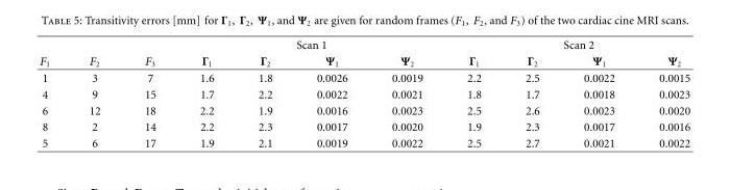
<table><thead><tr><td rowspan="2">F<sub>1</sub></td><td rowspan="2">F<sub>2</sub></td><td rowspan="2">F<sub>3</sub></td><td colspan="4">Scan 1</td><td colspan="4">Scan 2</td></tr><tr><td>Γ<sub>1</sub></td><td>Γ<sub>2</sub></td><td>Ψ<sub>1</sub></td><td>Ψ<sub>2</sub></td><td>Γ<sub>1</sub></td><td>Γ<sub>2</sub></td><td>Ψ<sub>1</sub></td><td>Ψ<sub>2</sub></td></tr></thead><tbody><tr><td>1</td><td>3</td><td>7</td><td>1.6</td><td>1.8</td><td>0.0026</td><td>0.0019</td><td>2.2</td><td>2.5</td><td>0.0022</td><td>0.0015</td></tr><tr><td>4</td><td>9</td><td>15</td><td>1.7</td><td>2.2</td><td>0.0022</td><td>0.0021</td><td>1.8</td><td>1.7</td><td>0.0018</td><td>0.0023</td></tr><tr><td>6</td><td>12</td><td>18</td><td>2.2</td><td>1.9</td><td>0.0016</td><td>0.0023</td><td>2.5</td><td>2.6</td><td>0.0023</td><td>0.0020</td></tr><tr><td>8</td><td>2</td><td>14</td><td>2.2</td><td>2.3</td><td>0.0017</td><td>0.0020</td><td>1.9</td><td>2.3</td><td>0.0017</td><td>0.0016</td></tr><tr><td>5</td><td>6</td><td>17</td><td>1.9</td><td>2.1</td><td>0.0019</td><td>0.0022</td><td>2.5</td><td>2.7</td><td>0.0021</td><td>0.0022</td></tr></tbody></table>